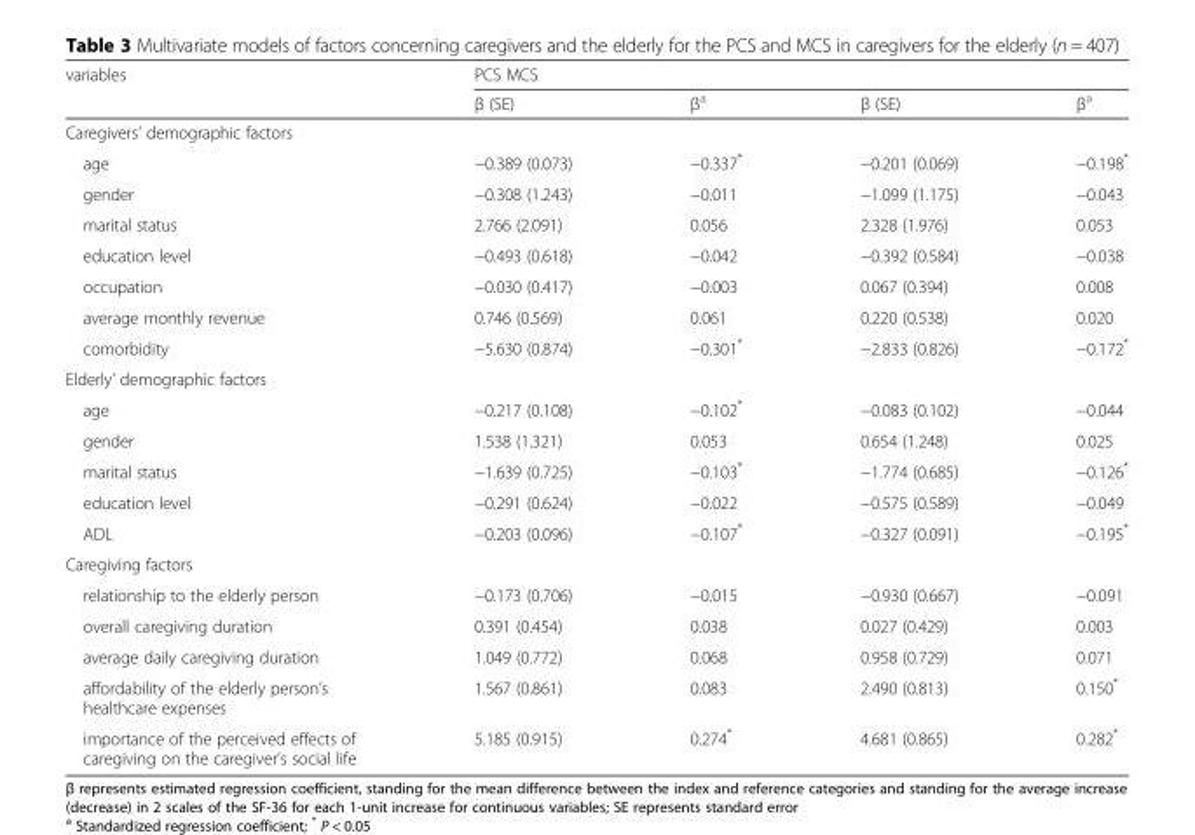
<table><thead><tr><td rowspan="2">variables</td><td colspan="4">PCS MCS</td></tr><tr><td>β (SE)</td><td>β<sup>a</sup></td><td>β (SE)</td><td>β<sup>a</sup></td></tr></thead><tbody><tr><td colspan="5">Caregivers’ demographic factors</td></tr><tr><td>age</td><td>−0.389 (0.073)</td><td>−0.337*</td><td>−0.201 (0.069)</td><td>−0.198*</td></tr><tr><td>gender</td><td>−0.308 (1.243)</td><td>−0.011</td><td>−1.099 (1.175)</td><td>−0.043</td></tr><tr><td>marital status</td><td>2.766 (2.091)</td><td>0.056</td><td>2.328 (1.976)</td><td>0.053</td></tr><tr><td>education level</td><td>−0.493 (0.618)</td><td>−0.042</td><td>−0.392 (0.584)</td><td>−0.038</td></tr><tr><td>occupation</td><td>−0.030 (0.417)</td><td>−0.003</td><td>0.067 (0.394)</td><td>0.008</td></tr><tr><td>average monthly revenue</td><td>0.746 (0.569)</td><td>0.061</td><td>0.220 (0.538)</td><td>0.020</td></tr><tr><td>comorbidity</td><td>−5.630 (0.874)</td><td>−0.301*</td><td>−2.833 (0.826)</td><td>−0.172*</td></tr><tr><td colspan="5">Elderly’ demographic factors</td></tr><tr><td>age</td><td>−0.217 (0.108)</td><td>−0.102*</td><td>−0.083 (0.102)</td><td>−0.044</td></tr><tr><td>gender</td><td>1.538 (1.321)</td><td>0.053</td><td>0.654 (1.248)</td><td>0.025</td></tr><tr><td>marital status</td><td>−1.639 (0.725)</td><td>−0.103*</td><td>−1.774 (0.685)</td><td>−0.126*</td></tr><tr><td>education level</td><td>−0.291 (0.624)</td><td>−0.022</td><td>−0.575 (0.589)</td><td>−0.049</td></tr><tr><td>ADL</td><td>−0.203 (0.096)</td><td>−0.107*</td><td>−0.327 (0.091)</td><td>−0.195*</td></tr><tr><td colspan="5">Caregiving factors</td></tr><tr><td>relationship to the elderly person</td><td>−0.173 (0.706)</td><td>−0.015</td><td>−0.930 (0.667)</td><td>−0.091</td></tr><tr><td>overall caregiving duration</td><td>0.391 (0.454)</td><td>0.038</td><td>0.027 (0.429)</td><td>0.003</td></tr><tr><td>average daily caregiving duration</td><td>1.049 (0.772)</td><td>0.068</td><td>0.958 (0.729)</td><td>0.071</td></tr><tr><td>affordability of the elderly person’s healthcare expenses</td><td>1.567 (0.861)</td><td>0.083</td><td>2.490 (0.813)</td><td>0.150*</td></tr><tr><td>importance of the perceived effects of caregiving on the caregiver’s social life</td><td>5.185 (0.915)</td><td>0.274*</td><td>4.681 (0.865)</td><td>0.282*</td></tr></tbody></table>